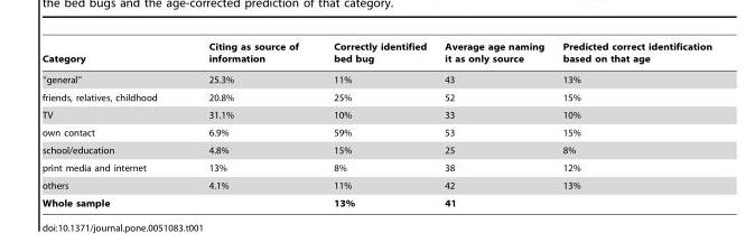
<table><thead><tr><td>Category</td><td>Citing as source of information</td><td>Correctly identified bed bug</td><td>Average age naming it as only source</td><td>Predicted correct identification based on that age</td></tr></thead><tbody><tr><td>‘‘general’’</td><td>25.3%</td><td>11%</td><td>43</td><td>13%</td></tr><tr><td>friends, relatives, childhood</td><td>20.8%</td><td>25%</td><td>52</td><td>15%</td></tr><tr><td>TV</td><td>31.1%</td><td>10%</td><td>33</td><td>10%</td></tr><tr><td>own contact</td><td>6.9%</td><td>59%</td><td>53</td><td>15%</td></tr><tr><td>school/education</td><td>4.8%</td><td>15%</td><td>25</td><td>8%</td></tr><tr><td>print media and internet</td><td>13%</td><td>8%</td><td>38</td><td>12%</td></tr><tr><td>others</td><td>4.1%</td><td>11%</td><td>42</td><td>13%</td></tr><tr><td>Whole sample</td><td></td><td>13%</td><td>41</td><td></td></tr></tbody></table>